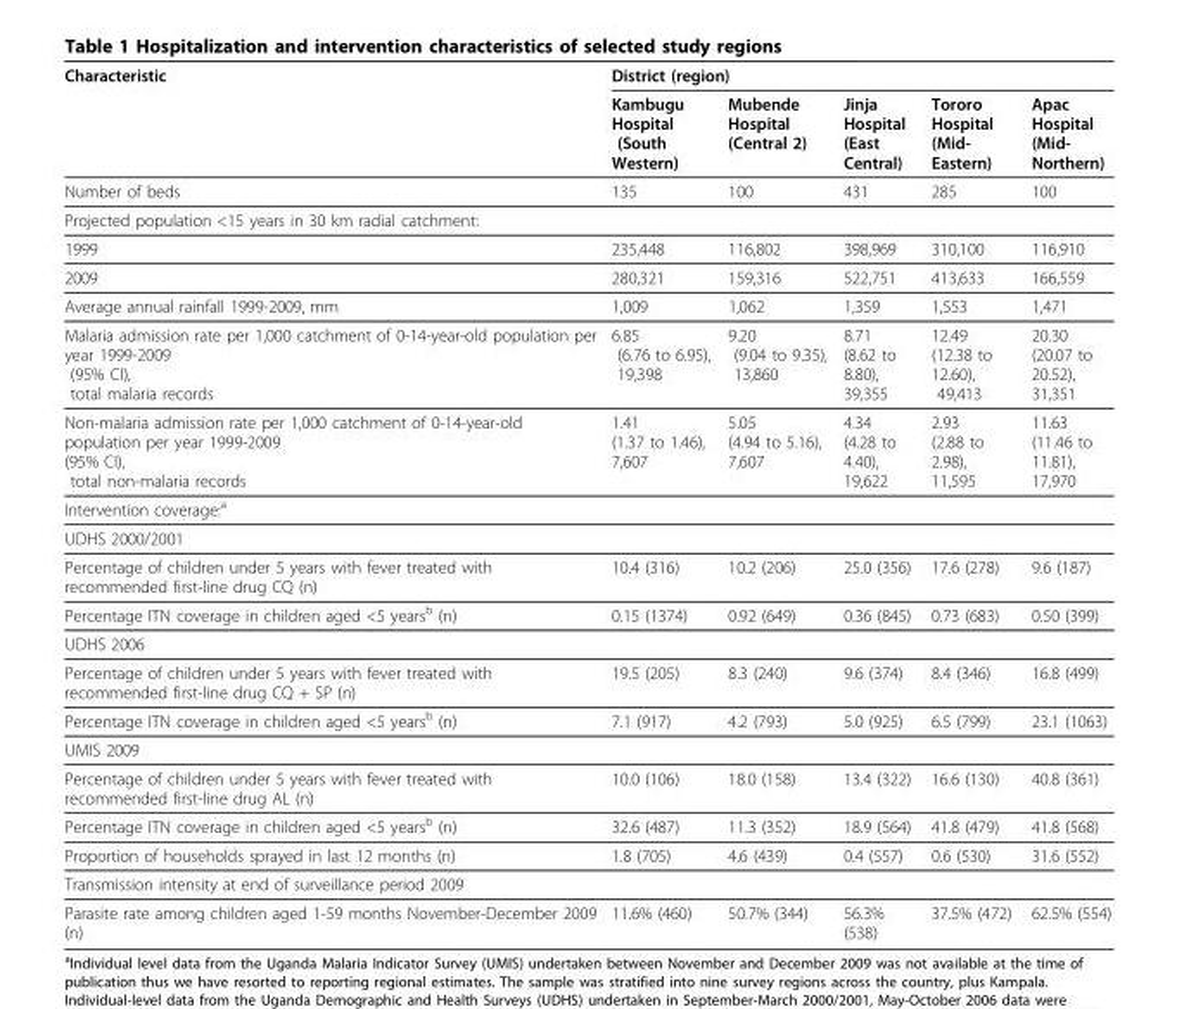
<table><thead><tr><td rowspan="2">Characteristic</td><td colspan="5">District (region)</td></tr><tr><td>Kambugu Hospital (South Western)</td><td>Mubende Hospital (Central 2)</td><td>Jinja Hospital (East Central)</td><td>Tororo Hospital (Mid- Eastern)</td><td>Apac Hospital (Mid- Northern)</td></tr></thead><tbody><tr><td>Number of beds</td><td>135</td><td>100</td><td>431</td><td>285</td><td>100</td></tr><tr><td colspan="6">Projected population &lt;15 years in 30 km radial catchment:</td></tr><tr><td>1999</td><td>235,448</td><td>116,802</td><td>398,969</td><td>310,100</td><td>116,910</td></tr><tr><td>2009</td><td>280,321</td><td>159,316</td><td>522,751</td><td>413,633</td><td>166,559</td></tr><tr><td>Average annual rainfall 1999-2009, mm</td><td>1,009</td><td>1,062</td><td>1,359</td><td>1,553</td><td>1,471</td></tr><tr><td>Malaria admission rate per 1,000 catchment of 0-14-year-old population per year 1999-2009 (95% CI), total malaria records</td><td>6.85 (6.76 to 6.95), 19,398</td><td>9.20 (9.04 to 9.35), 13,860</td><td>8.71 (8.62 to 8.80), 39,355</td><td>12.49 (12.38 to 12.60), 49,413</td><td>20.30 (20.07 to 20.52), 31,351</td></tr><tr><td>Non-malaria admission rate per 1,000 catchment of 0-14-year-old population per year 1999-2009 (95% CI), total non-malaria records</td><td>1.41 (1.37 to 1.46), 7,607</td><td>5.05 (4.94 to 5.16), 7,607</td><td>4.34 (4.28 to 4.40), 19,622</td><td>2.93 (2.88 to 2.98), 11,595</td><td>11.63 (11.46 to 11.81), 17,970</td></tr><tr><td colspan="6">Intervention coverage:<sup>a</sup></td></tr><tr><td colspan="6">UDHS 2000/2001</td></tr><tr><td>Percentage of children under 5 years with fever treated with recommended first-line drug CQ (n)</td><td>10.4 (316)</td><td>10.2 (206)</td><td>25.0 (356)</td><td>17.6 (278)</td><td>9.6 (187)</td></tr><tr><td>Percentage ITN coverage in children aged &lt;5 years<sup>b</sup> (n)</td><td>0.15 (1374)</td><td>0.92 (649)</td><td>0.36 (845)</td><td>0.73 (683)</td><td>0.50 (399)</td></tr><tr><td colspan="6">UDHS 2006</td></tr><tr><td>Percentage of children under 5 years with fever treated with recommended first-line drug CQ + SP (n)</td><td>19.5 (205)</td><td>8.3 (240)</td><td>9.6 (374)</td><td>8.4 (346)</td><td>16.8 (499)</td></tr><tr><td>Percentage ITN coverage in children aged &lt;5 years<sup>b</sup> (n)</td><td>7.1 (917)</td><td>4.2 (793)</td><td>5.0 (925)</td><td>6.5 (799)</td><td>23.1 (1063)</td></tr><tr><td colspan="6">UMIS 2009</td></tr><tr><td>Percentage of children under 5 years with fever treated with recommended first-line drug AL (n)</td><td>10.0 (106)</td><td>18.0 (158)</td><td>13.4 (322)</td><td>16.6 (130)</td><td>40.8 (361)</td></tr><tr><td>Percentage ITN coverage in children aged &lt;5 years<sup>b</sup> (n)</td><td>32.6 (487)</td><td>11.3 (352)</td><td>18.9 (564)</td><td>41.8 (479)</td><td>41.8 (568)</td></tr><tr><td>Proportion of households sprayed in last 12 months (n)</td><td>1.8 (705)</td><td>4.6 (439)</td><td>0.4 (557)</td><td>0.6 (530)</td><td>31.6 (552)</td></tr><tr><td colspan="6">Transmission intensity at end of surveillance period 2009</td></tr><tr><td>Parasite rate among children aged 1-59 months November-December 2009 (n)</td><td>11.6% (460)</td><td>50.7% (344)</td><td>56.3% (538)</td><td>37.5% (472)</td><td>62.5% (554)</td></tr></tbody></table>